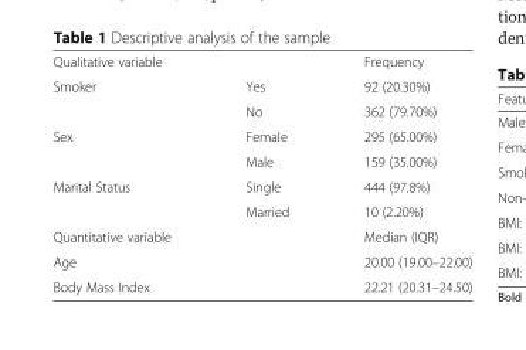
<table><tbody><tr><td>Qualitative variable</td><td></td><td>Frequency</td></tr><tr><td rowspan="2">Smoker</td><td>Yes</td><td>92 (20.30%)</td></tr><tr><td>No</td><td>362 (79.70%)</td></tr><tr><td rowspan="2">Sex</td><td>Female</td><td>295 (65.00%)</td></tr><tr><td>Male</td><td>159 (35.00%)</td></tr><tr><td rowspan="2">Marital Status</td><td>Single</td><td>444 (97.8%)</td></tr><tr><td>Married</td><td>10 (2.20%)</td></tr><tr><td>Quantitative variable</td><td></td><td>Median (IQR)</td></tr><tr><td>Age</td><td></td><td>20.00 (19.00–22.00)</td></tr><tr><td>Body Mass Index</td><td></td><td>22.21 (20.31–24.50)</td></tr></tbody></table>